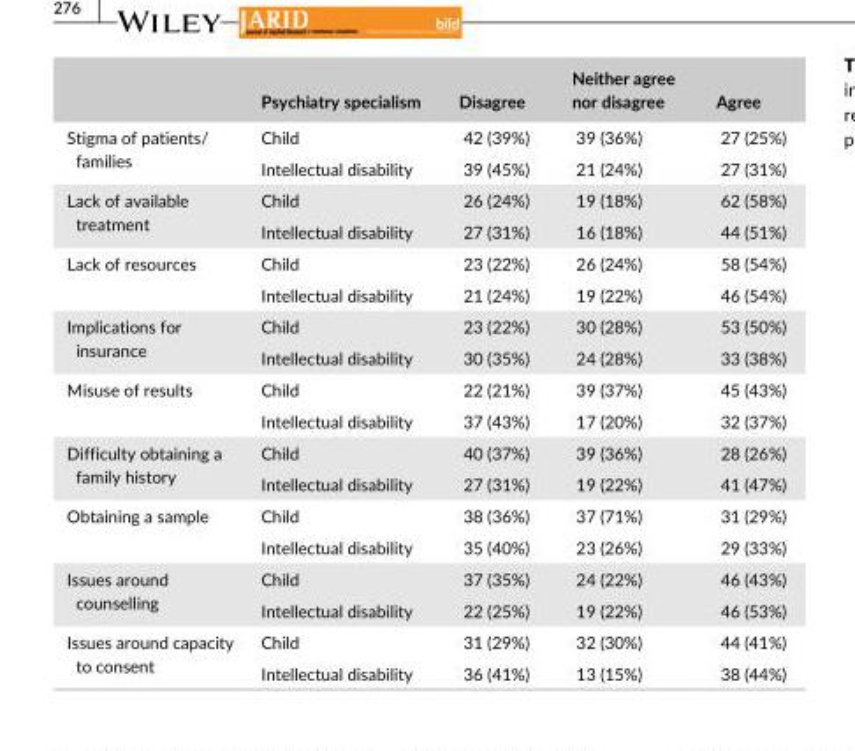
<table><thead><tr><td></td><td>Psychiatry specialism</td><td>Disagree</td><td>Neither agree nor disagree</td><td>Agree</td></tr></thead><tbody><tr><td rowspan="2">Stigma of patients/ families</td><td>Child</td><td>42 (39%)</td><td>39 (36%)</td><td>27 (25%)</td></tr><tr><td>Intellectual disability</td><td>39 (45%)</td><td>21 (24%)</td><td>27 (31%)</td></tr><tr><td rowspan="2">Lack of available treatment</td><td>Child</td><td>26 (24%)</td><td>19 (18%)</td><td>62 (58%)</td></tr><tr><td>Intellectual disability</td><td>27 (31%)</td><td>16 (18%)</td><td>44 (51%)</td></tr><tr><td rowspan="2">Lack of resources</td><td>Child</td><td>23 (22%)</td><td>26 (24%)</td><td>58 (54%)</td></tr><tr><td>Intellectual disability</td><td>21 (24%)</td><td>19 (22%)</td><td>46 (54%)</td></tr><tr><td rowspan="2">Implications for insurance</td><td>Child</td><td>23 (22%)</td><td>30 (28%)</td><td>53 (50%)</td></tr><tr><td>Intellectual disability</td><td>30 (35%)</td><td>24 (28%)</td><td>33 (38%)</td></tr><tr><td rowspan="2">Misuse of results</td><td>Child</td><td>22 (21%)</td><td>39 (37%)</td><td>45 (43%)</td></tr><tr><td>Intellectual disability</td><td>37 (43%)</td><td>17 (20%)</td><td>32 (37%)</td></tr><tr><td rowspan="2">Difficulty obtaining a family history</td><td>Child</td><td>40 (37%)</td><td>39 (36%)</td><td>28 (26%)</td></tr><tr><td>Intellectual disability</td><td>27 (31%)</td><td>19 (22%)</td><td>41 (47%)</td></tr><tr><td rowspan="2">Obtaining a sample</td><td>Child</td><td>38 (36%)</td><td>37 (71%)</td><td>31 (29%)</td></tr><tr><td>Intellectual disability</td><td>35 (40%)</td><td>23 (26%)</td><td>29 (33%)</td></tr><tr><td rowspan="2">Issues around counselling</td><td>Child</td><td>37 (35%)</td><td>24 (22%)</td><td>46 (43%)</td></tr><tr><td>Intellectual disability</td><td>22 (25%)</td><td>19 (22%)</td><td>46 (53%)</td></tr><tr><td rowspan="2">Issues around capacity to consent</td><td>Child</td><td>31 (29%)</td><td>32 (30%)</td><td>44 (41%)</td></tr><tr><td>Intellectual disability</td><td>36 (41%)</td><td>13 (15%)</td><td>38 (44%)</td></tr></tbody></table>